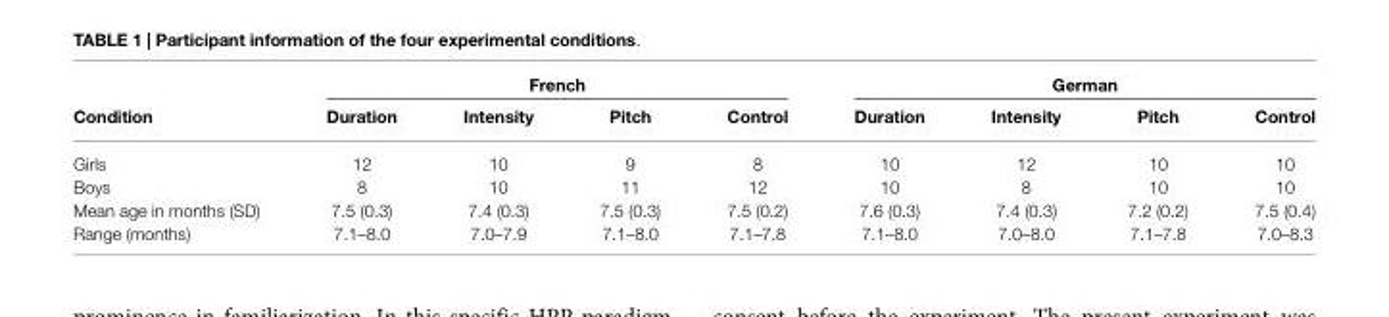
<table><thead><tr><td rowspan="2">Condition</td><td colspan="4">French</td><td colspan="4">German</td></tr><tr><td>Duration</td><td>Intensity</td><td>Pitch</td><td>Control</td><td>Duration</td><td>Intensity</td><td>Pitch</td><td>Control</td></tr></thead><tbody><tr><td>Girls</td><td>12</td><td>10</td><td>9</td><td>8</td><td>10</td><td>12</td><td>10</td><td>10</td></tr><tr><td>Boys</td><td>8</td><td>10</td><td>11</td><td>12</td><td>10</td><td>8</td><td>10</td><td>10</td></tr><tr><td>Mean age in months (SD)</td><td>7.5 (0.3)</td><td>7.4 (0.3)</td><td>7.5 (0.3)</td><td>7.5 (0.2)</td><td>7.6 (0.3)</td><td>7.4 (0.3)</td><td>7.2 (0.2)</td><td>7.5 (0.4)</td></tr><tr><td>Range (months)</td><td>7.1–8.0</td><td>7.0–7.9</td><td>7.1–8.0</td><td>7.1–7.8</td><td>7.1–8.0</td><td>7.0–8.0</td><td>7.1–7.8</td><td>7.0–8.3</td></tr></tbody></table>